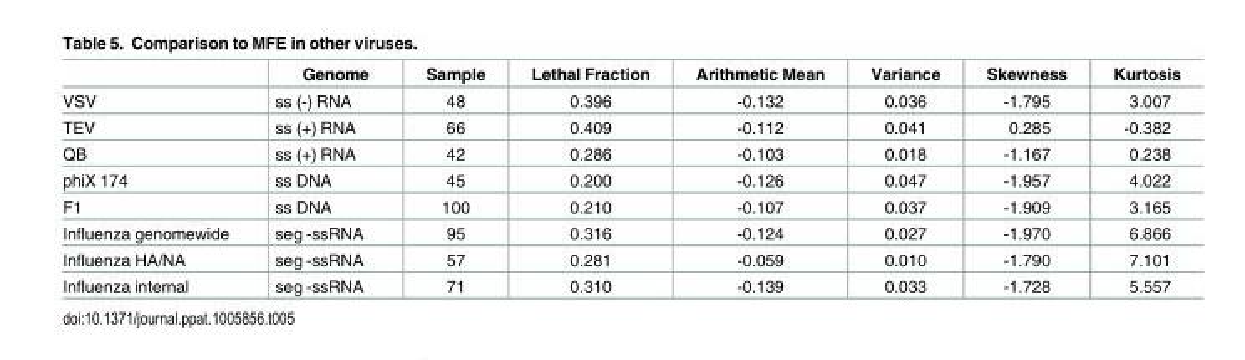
<table><thead><tr><td></td><td>Genome</td><td>Sample</td><td>Lethal Fraction</td><td>Arithmetic Mean</td><td>Variance</td><td>Skewness</td><td>Kurtosis</td></tr></thead><tbody><tr><td>VSV</td><td>ss (-) RNA</td><td>48</td><td>0.396</td><td>-0.132</td><td>0.036</td><td>-1.795</td><td>3.007</td></tr><tr><td>TEV</td><td>ss (+) RNA</td><td>66</td><td>0.409</td><td>-0.112</td><td>0.041</td><td>0.285</td><td>-0.382</td></tr><tr><td>QB</td><td>ss (+) RNA</td><td>42</td><td>0.286</td><td>-0.103</td><td>0.018</td><td>-1.167</td><td>0.238</td></tr><tr><td>phiX 174</td><td>ss DNA</td><td>45</td><td>0.200</td><td>-0.126</td><td>0.047</td><td>-1.957</td><td>4.022</td></tr><tr><td>F1</td><td>ss DNA</td><td>100</td><td>0.210</td><td>-0.107</td><td>0.037</td><td>-1.909</td><td>3.165</td></tr><tr><td>Influenza genomewide</td><td>seg -ssRNA</td><td>95</td><td>0.316</td><td>-0.124</td><td>0.027</td><td>-1.970</td><td>6.866</td></tr><tr><td>Influenza HA/NA</td><td>seg -ssRNA</td><td>57</td><td>0.281</td><td>-0.059</td><td>0.010</td><td>-1.790</td><td>7.101</td></tr><tr><td>Influenza internal</td><td>seg -ssRNA</td><td>71</td><td>0.310</td><td>-0.139</td><td>0.033</td><td>-1.728</td><td>5.557</td></tr></tbody></table>